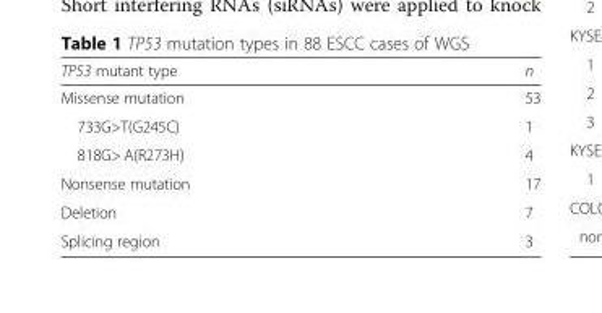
<table><thead><tr><td>TP53 mutant type</td><td>n</td></tr></thead><tbody><tr><td>Missense mutation</td><td>53</td></tr><tr><td>733G&gt;T(G245C)</td><td>1</td></tr><tr><td>818G&gt; A(R273H)</td><td>4</td></tr><tr><td>Nonsense mutation</td><td>17</td></tr><tr><td>Deletion</td><td>7</td></tr><tr><td>Splicing region</td><td>3</td></tr></tbody></table>